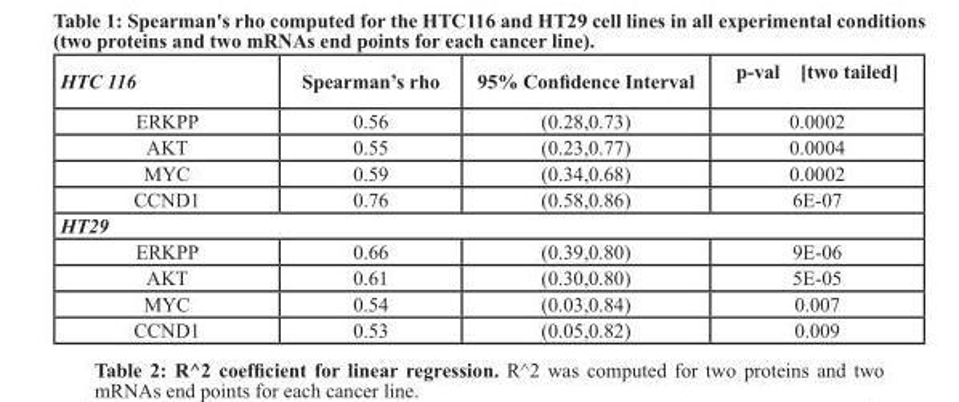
<table><thead><tr><td>HTC 116</td><td>Spearman’s rho</td><td>95% Confidence Interval</td><td>p-val [two tailed]</td></tr></thead><tbody><tr><td>ERKPP</td><td>0.56</td><td>(0.28,0.73)</td><td>0.0002</td></tr><tr><td>AKT</td><td>0.55</td><td>(0.23,0.77)</td><td>0.0004</td></tr><tr><td>MYC</td><td>0.59</td><td>(0.34,0.68)</td><td>0.0002</td></tr><tr><td>CCND1</td><td>0.76</td><td>(0.58,0.86)</td><td>6E-07</td></tr><tr><td colspan="4">HT29</td></tr><tr><td>ERKPP</td><td>0.66</td><td>(0.39,0.80)</td><td>9E-06</td></tr><tr><td>AKT</td><td>0.61</td><td>(0.30,0.80)</td><td>5E-05</td></tr><tr><td>MYC</td><td>0.54</td><td>(0.03,0.84)</td><td>0.007</td></tr><tr><td>CCND1</td><td>0.53</td><td>(0.05,0.82)</td><td>0.009</td></tr></tbody></table>